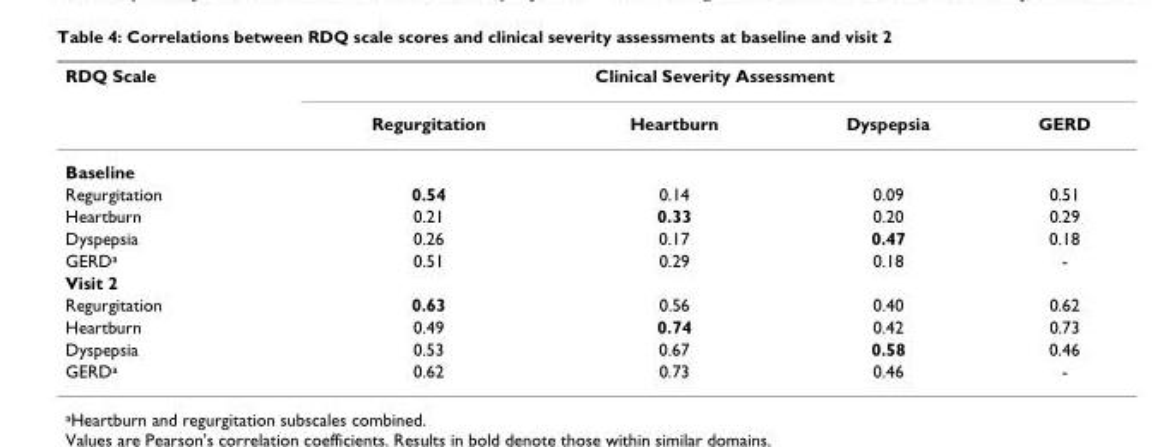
<table><thead><tr><td rowspan="2">RDQ Scale</td><td colspan="4">Clinical Severity Assessment</td></tr><tr><td>Regurgitation</td><td>Heartburn</td><td>Dyspepsia</td><td>GERD</td></tr></thead><tbody><tr><td colspan="5">Baseline</td></tr><tr><td>Regurgitation</td><td>0.54</td><td>0.14</td><td>0.09</td><td>0.51</td></tr><tr><td>Heartburn</td><td>0.21</td><td>0.33</td><td>0.20</td><td>0.29</td></tr><tr><td>Dyspepsia</td><td>0.26</td><td>0.17</td><td>0.47</td><td>0.18</td></tr><tr><td>GERD<sup>a</sup></td><td>0.51</td><td>0.29</td><td>0.18</td><td>-</td></tr><tr><td colspan="5">Visit 2</td></tr><tr><td>Regurgitation</td><td>0.63</td><td>0.56</td><td>0.40</td><td>0.62</td></tr><tr><td>Heartburn</td><td>0.49</td><td>0.74</td><td>0.42</td><td>0.73</td></tr><tr><td>Dyspepsia</td><td>0.53</td><td>0.67</td><td>0.58</td><td>0.46</td></tr><tr><td>GERD<sup>a</sup></td><td>0.62</td><td>0.73</td><td>0.46</td><td>-</td></tr></tbody></table>